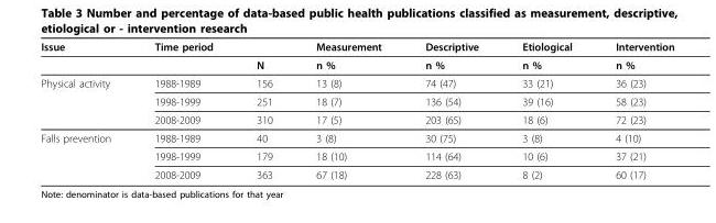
<table><thead><tr><td>Issue</td><td>Time period</td><td></td><td>Measurement</td><td>Descriptive</td><td>Etiological</td><td>Intervention</td></tr></thead><tbody><tr><td></td><td></td><td>N</td><td>n %</td><td>n %</td><td>n %</td><td>n %</td></tr><tr><td rowspan="3">Physical activity</td><td>1988-1989</td><td>156</td><td>13 (8)</td><td>74 (47)</td><td>33 (21)</td><td>36 (23)</td></tr><tr><td>1998-1999</td><td>251</td><td>18 (7)</td><td>136 (54)</td><td>39 (16)</td><td>58 (23)</td></tr><tr><td>2008-2009</td><td>310</td><td>17 (5)</td><td>203 (65)</td><td>18 (6)</td><td>72 (23)</td></tr><tr><td rowspan="3">Falls prevention</td><td>1988-1989</td><td>40</td><td>3 (8)</td><td>30 (75)</td><td>3 (8)</td><td>4 (10)</td></tr><tr><td>1998-1999</td><td>179</td><td>18 (10)</td><td>114 (64)</td><td>10 (6)</td><td>37 (21)</td></tr><tr><td>2008-2009</td><td>363</td><td>67 (18)</td><td>228 (63)</td><td>8 (2)</td><td>60 (17)</td></tr></tbody></table>